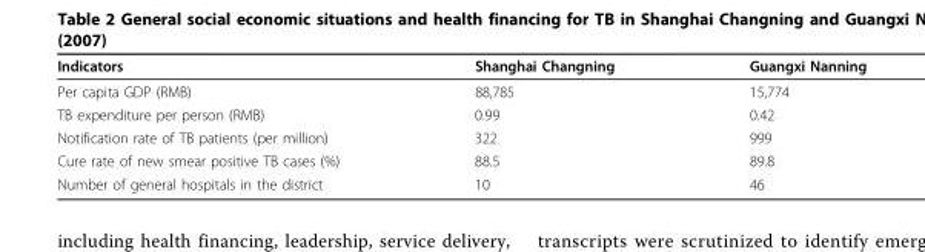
<table><thead><tr><td>Indicators</td><td>Shanghai Changning</td><td>Guangxi Nanning</td></tr></thead><tbody><tr><td>Per capita GDP (RMB)</td><td>88,785</td><td>15,774</td></tr><tr><td>TB expenditure per person (RMB)</td><td>0.99</td><td>0.42</td></tr><tr><td>Notification rate of TB patients (per million)</td><td>322</td><td>999</td></tr><tr><td>Cure rate of new smear positive TB cases (%)</td><td>88.5</td><td>89.8</td></tr><tr><td>Number of general hospitals in the district</td><td>10</td><td>46</td></tr></tbody></table>